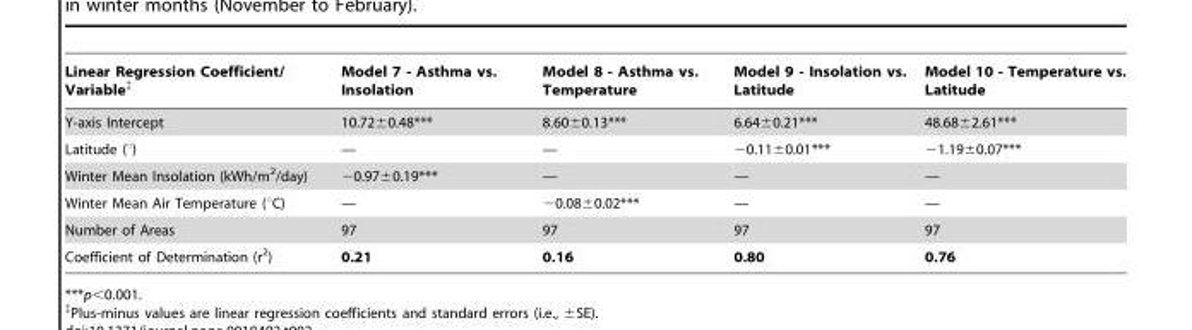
<table><thead><tr><td>Linear Regression Coefficient/ Variable‡</td><td>Model 7 - Asthma vs. Insolation</td><td>Model 8 - Asthma vs. Temperature</td><td>Model 9 - Insolation vs. Latitude</td><td>Model 10 - Temperature vs. Latitude</td></tr></thead><tbody><tr><td>Y-axis Intercept</td><td>10.72±0.48***</td><td>8.60±0.13***</td><td>6.64±0.21***</td><td>48.68±2.61***</td></tr><tr><td>Latitude (°)</td><td>—</td><td>—</td><td>−0.11±0.01***</td><td>−1.19±0.07***</td></tr><tr><td>Winter Mean Insolation (kWh/m<sup>2</sup>/day)</td><td>−0.97±0.19***</td><td>—</td><td>—</td><td>—</td></tr><tr><td>Winter Mean Air Temperature (°C)</td><td>—</td><td>−0.08±0.02***</td><td>—</td><td>—</td></tr><tr><td>Number of Areas</td><td>97</td><td>97</td><td>97</td><td>97</td></tr><tr><td>Coefficient of Determination (r<sup>2</sup>)</td><td>0.21</td><td>0.16</td><td>0.80</td><td>0.76</td></tr></tbody></table>